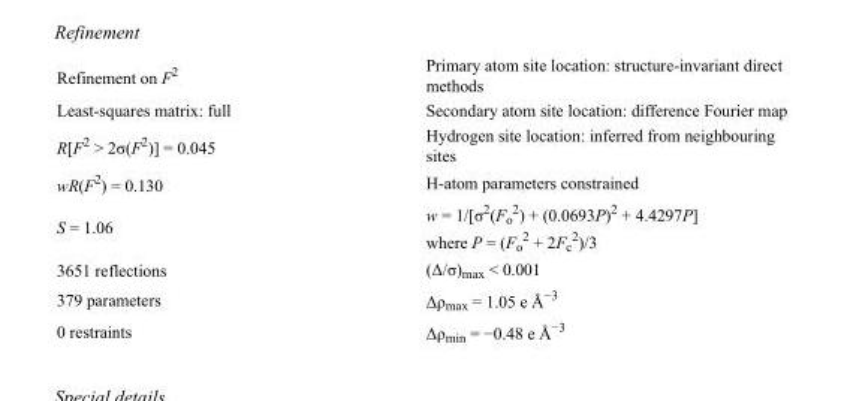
<table><tbody><tr><td>Refinement on F<sup>2</sup></td><td>Primary atom site location: structure-invariant direct methods</td></tr><tr><td>Least-squares matrix: full</td><td>Secondary atom site location: difference Fourier map</td></tr><tr><td>R[F<sup>2</sup> &gt; 2σ(F<sup>2</sup>)] = 0.045</td><td>Hydrogen site location: inferred from neighbouring sites</td></tr><tr><td>wR(F<sup>2</sup>) = 0.130</td><td>H-atom parameters constrained</td></tr><tr><td>S = 1.06</td><td>w = 1/[σ<sup>2</sup>(F<sub>o</sub> <sup>2</sup>) + (0.0693P)<sup>2</sup> + 4.4297P] where P = (F<sub>o</sub> <sup>2</sup> + 2F<sub>c</sub> <sup>2</sup>)/3</td></tr><tr><td>3651 reflections</td><td>(Δ/σ)<sub>max</sub> &lt; 0.001</td></tr><tr><td>379 parameters</td><td>Δρ<sub>max</sub> = 1.05 e Å<sup>−3</sup></td></tr><tr><td>0 restraints</td><td>Δρ<sub>min</sub> = −0.48 e Å<sup>−3</sup></td></tr></tbody></table>